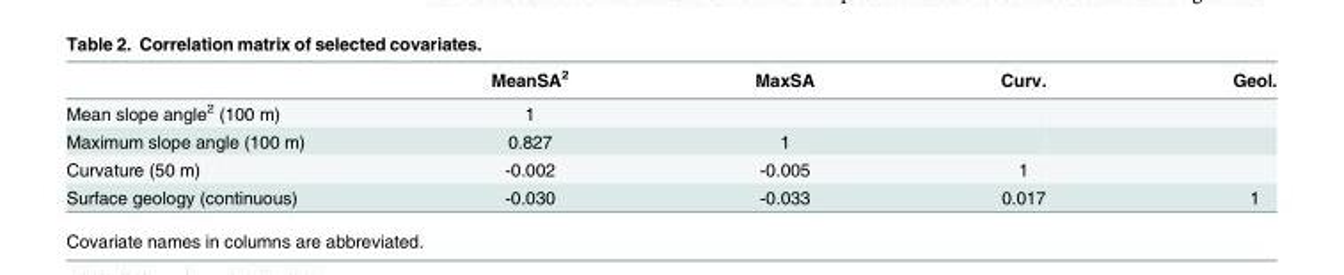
<table><thead><tr><td></td><td>MeanSA<sup>2</sup></td><td>MaxSA</td><td>Curv.</td><td>Geol.</td></tr></thead><tbody><tr><td>Mean slope angle<sup>2</sup> (100 m)</td><td>1</td><td></td><td></td><td></td></tr><tr><td>Maximum slope angle (100 m)</td><td>0.827</td><td>1</td><td></td><td></td></tr><tr><td>Curvature (50 m)</td><td>-0.002</td><td>-0.005</td><td>1</td><td></td></tr><tr><td>Surface geology (continuous)</td><td>-0.030</td><td>-0.033</td><td>0.017</td><td>1</td></tr></tbody></table>